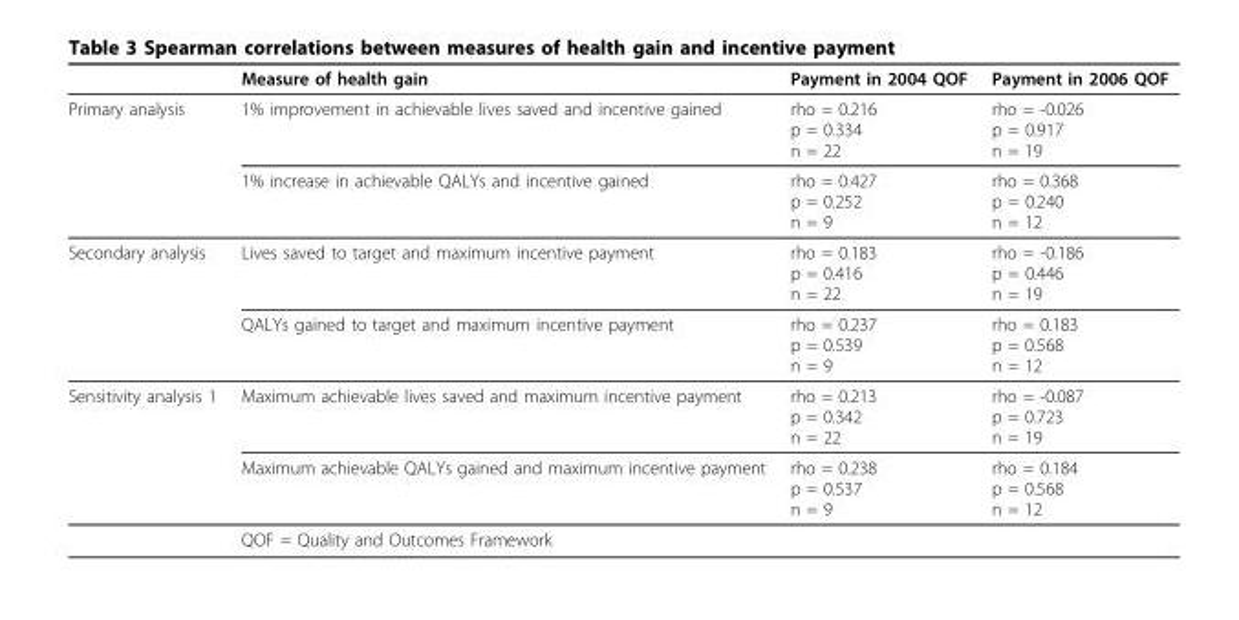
<table><thead><tr><td></td><td>Measure of health gain</td><td>Payment in 2004 QOF</td><td>Payment in 2006 QOF</td></tr></thead><tbody><tr><td rowspan="2">Primary analysis</td><td>1% improvement in achievable lives saved and incentive gained</td><td>rho = 0.216 p = 0.334 n = 22</td><td>rho = -0.026 p = 0.917 n = 19</td></tr><tr><td>1% increase in achievable QALYs and incentive gained</td><td>rho = 0.427 p = 0.252 n = 9</td><td>rho = 0.368 p = 0.240 n = 12</td></tr><tr><td rowspan="2">Secondary analysis</td><td>Lives saved to target and maximum incentive payment</td><td>rho = 0.183 p = 0.416 n = 22</td><td>rho = -0.186 p = 0.446 n = 19</td></tr><tr><td>QALYs gained to target and maximum incentive payment</td><td>rho = 0.237 p = 0.539 n = 9</td><td>rho = 0.183 p = 0.568 n = 12</td></tr><tr><td rowspan="3">Sensitivity analysis 1</td><td>Maximum achievable lives saved and maximum incentive payment</td><td>rho = 0.213 p = 0.342 n = 22</td><td>rho = -0.087 p = 0.723 n = 19</td></tr><tr><td>Maximum achievable QALYs gained and maximum incentive payment</td><td>rho = 0.238 p = 0.537 n = 9</td><td>rho = 0.184 p = 0.568 n = 12</td></tr><tr><td colspan="3">QOF = Quality and Outcomes Framework</td></tr></tbody></table>